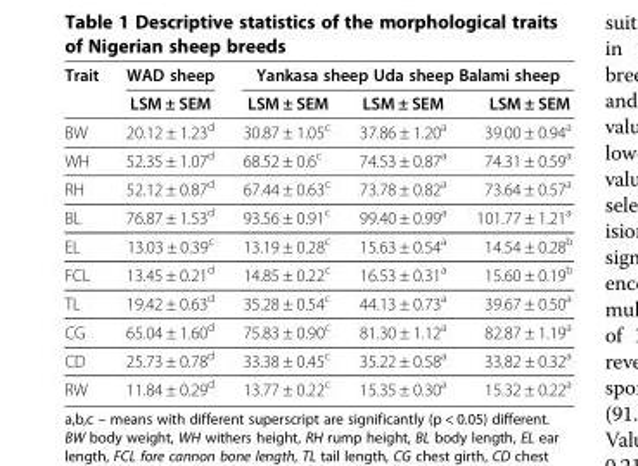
<table><thead><tr><td rowspan="2">Trait</td><td rowspan="2">WAD sheep LSM ± SEM</td><td colspan="3">Yankasa sheep Uda sheep Balami sheep</td></tr><tr><td>LSM ± SEM</td><td>LSM ± SEM</td><td>LSM ± SEM</td></tr></thead><tbody><tr><td>BW</td><td>20.12 ± 1.23<sup>d</sup></td><td>30.87 ± 1.05<sup>c</sup></td><td>37.86 ± 1.20<sup>a</sup></td><td>39.00 ± 0.94<sup>a</sup></td></tr><tr><td>WH</td><td>52.35 ± 1.07<sup>d</sup></td><td>68.52 ± 0.6<sup>c</sup></td><td>74.53 ± 0.87<sup>a</sup></td><td>74.31 ± 0.59<sup>a</sup></td></tr><tr><td>RH</td><td>52.12 ± 0.87<sup>d</sup></td><td>67.44 ± 0.63<sup>c</sup></td><td>73.78 ± 0.82<sup>a</sup></td><td>73.64 ± 0.57<sup>a</sup></td></tr><tr><td>BL</td><td>76.87 ± 1.53<sup>d</sup></td><td>93.56 ± 0.91<sup>c</sup></td><td>99.40 ± 0.99<sup>a</sup></td><td>101.77 ± 1.21<sup>a</sup></td></tr><tr><td>EL</td><td>13.03 ± 0.39<sup>c</sup></td><td>13.19 ± 0.28<sup>c</sup></td><td>15.63 ± 0.54<sup>a</sup></td><td>14.54 ± 0.28<sup>b</sup></td></tr><tr><td>FCL</td><td>13.45 ± 0.21<sup>d</sup></td><td>14.85 ± 0.22<sup>c</sup></td><td>16.53 ± 0.31<sup>a</sup></td><td>15.60 ± 0.19<sup>b</sup></td></tr><tr><td>TL</td><td>19.42 ± 0.63<sup>d</sup></td><td>35.28 ± 0.54<sup>c</sup></td><td>44.13 ± 0.73<sup>a</sup></td><td>39.67 ± 0.50<sup>a</sup></td></tr><tr><td>CG</td><td>65.04 ± 1.60<sup>d</sup></td><td>75.83 ± 0.90<sup>c</sup></td><td>81.30 ± 1.12<sup>a</sup></td><td>82.87 ± 1.19<sup>a</sup></td></tr><tr><td>CD</td><td>25.73 ± 0.78<sup>d</sup></td><td>33.38 ± 0.45<sup>c</sup></td><td>35.22 ± 0.58<sup>a</sup></td><td>33.82 ± 0.32<sup>a</sup></td></tr><tr><td>RW</td><td>11.84 ± 0.29<sup>d</sup></td><td>13.77 ± 0.22<sup>c</sup></td><td>15.35 ± 0.30<sup>a</sup></td><td>15.32 ± 0.22<sup>a</sup></td></tr></tbody></table>